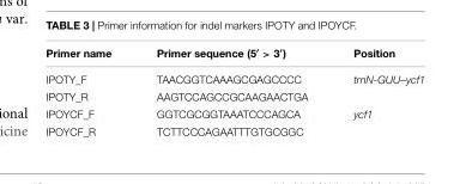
<table><thead><tr><td>Primer name</td><td>Primer sequence (5′ &gt; 3′)</td><td>Position</td></tr></thead><tbody><tr><td>IPOTY_F</td><td>TAACGGTCAAAGCGAGCCCC</td><td>trnN-GUU–ycf1</td></tr><tr><td>IPOTY_R</td><td>AAGTCCAGCCGCAAGAACTGA</td><td></td></tr><tr><td>IPOYCF_F</td><td>GGTCGCGGTAAATCCCAGCA</td><td>ycf1</td></tr><tr><td>IPOYCF_R</td><td>TCTTCCCAGAATTTGTGCGGC</td><td></td></tr></tbody></table>